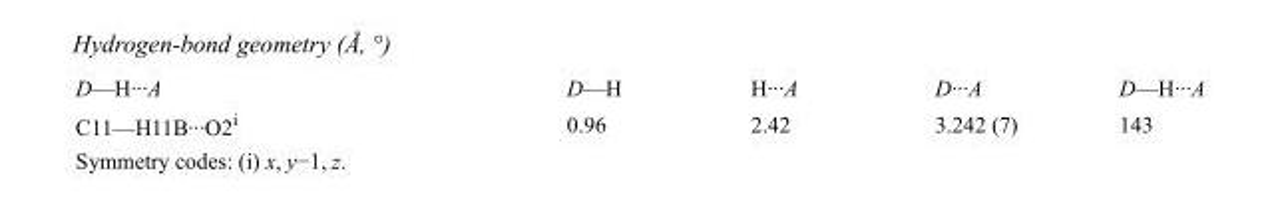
<table><tbody><tr><td>D—H···A</td><td>D—H</td><td>H···A</td><td>D···A</td><td>D—H···A</td></tr><tr><td>C11—H11B···O2<sup>i</sup></td><td>0.96</td><td>2.42</td><td>3.242 (7)</td><td>143</td></tr></tbody></table>